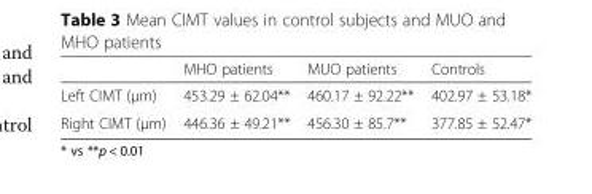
<table><thead><tr><td></td><td>MHO patients</td><td>MUO patients</td><td>Controls</td></tr></thead><tbody><tr><td>Left CIMT (μm)</td><td>453.29 ± 62.04**</td><td>460.17 ± 92.22**</td><td>402.97 ± 53.18*</td></tr><tr><td>Right CIMT (μm)</td><td>446.36 ± 49.21**</td><td>456.30 ± 85.7**</td><td>377.85 ± 52.47*</td></tr></tbody></table>